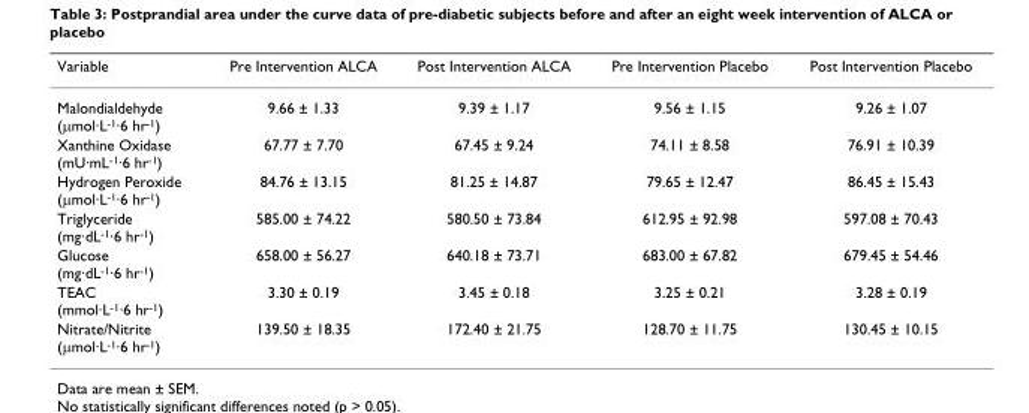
<table><thead><tr><td>Variable</td><td>Pre Intervention ALCA</td><td>Post Intervention ALCA</td><td>Pre Intervention Placebo</td><td>Post Intervention Placebo</td></tr></thead><tbody><tr><td>Malondialdehyde (μmol·L<sup>-1</sup>·6 hr<sup>-1</sup>)</td><td>9.66 ± 1.33</td><td>9.39 ± 1.17</td><td>9.56 ± 1.15</td><td>9.26 ± 1.07</td></tr><tr><td>Xanthine Oxidase (mU·mL<sup>-1</sup>·6 hr<sup>-1</sup>)</td><td>67.77 ± 7.70</td><td>67.45 ± 9.24</td><td>74.11 ± 8.58</td><td>76.91 ± 10.39</td></tr><tr><td>Hydrogen Peroxide (μmol·L<sup>-1</sup>·6 hr<sup>-1</sup>)</td><td>84.76 ± 13.15</td><td>81.25 ± 14.87</td><td>79.65 ± 12.47</td><td>86.45 ± 15.43</td></tr><tr><td>Triglyceride (mg·dL<sup>-1</sup>·6 hr<sup>-1</sup>)</td><td>585.00 ± 74.22</td><td>580.50 ± 73.84</td><td>612.95 ± 92.98</td><td>597.08 ± 70.43</td></tr><tr><td>Glucose (mg·dL<sup>-1</sup>·6 hr<sup>-1</sup>)</td><td>658.00 ± 56.27</td><td>640.18 ± 73.71</td><td>683.00 ± 67.82</td><td>679.45 ± 54.46</td></tr><tr><td>TEAC (mmol·L<sup>-1</sup>·6 hr<sup>-1</sup>)</td><td>3.30 ± 0.19</td><td>3.45 ± 0.18</td><td>3.25 ± 0.21</td><td>3.28 ± 0.19</td></tr><tr><td>Nitrate/Nitrite (μmol·L<sup>-1</sup>·6 hr<sup>-1</sup>)</td><td>139.50 ± 18.35</td><td>172.40 ± 21.75</td><td>128.70 ± 11.75</td><td>130.45 ± 10.15</td></tr></tbody></table>